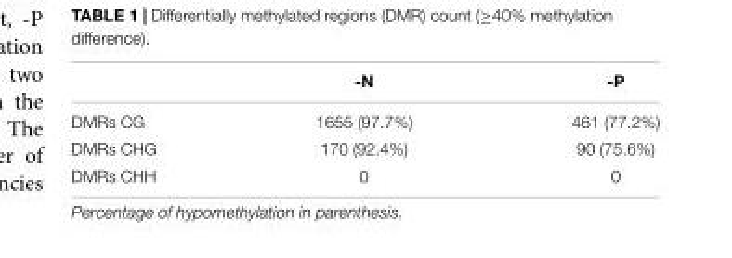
<table><thead><tr><td></td><td>-N</td><td>-P</td></tr></thead><tbody><tr><td>DMRs CG</td><td>1655 (97.7%)</td><td>461 (77.2%)</td></tr><tr><td>DMRs CHG</td><td>170 (92.4%)</td><td>90 (75.6%)</td></tr><tr><td>DMRs CHH</td><td>0</td><td>0</td></tr></tbody></table>